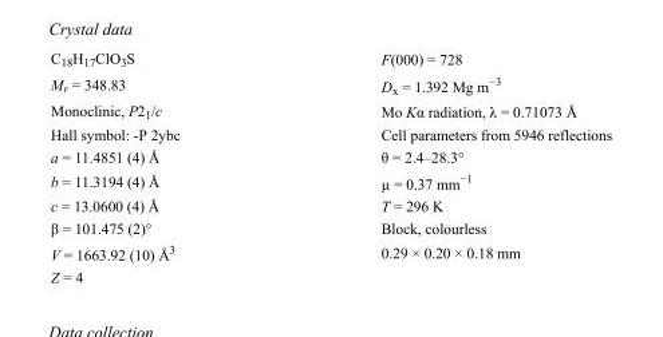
<table><tbody><tr><td>C<sub>18</sub>H<sub>17</sub>ClO<sub>3</sub>S</td><td>F(000) = 728</td></tr><tr><td>M<sub>r</sub> = 348.83</td><td>D<sub>x</sub> = 1.392 Mg m<sup>−3</sup></td></tr><tr><td>Monoclinic, P2<sub>1</sub>/c</td><td>Mo Kα radiation, λ = 0.71073 Å</td></tr><tr><td>Hall symbol: -P 2ybc</td><td>Cell parameters from 5946 reflections</td></tr><tr><td>a = 11.4851 (4) Å</td><td>θ = 2.4–28.3°</td></tr><tr><td>b = 11.3194 (4) Å</td><td>µ = 0.37 mm<sup>−1</sup></td></tr><tr><td>c = 13.0600 (4) Å</td><td>T = 296 K</td></tr><tr><td>β = 101.475 (2)°</td><td>Block, colourless</td></tr><tr><td>V = 1663.92 (10) Å<sup>3</sup></td><td>0.29 × 0.20 × 0.18 mm</td></tr><tr><td>Z = 4</td><td></td></tr></tbody></table>